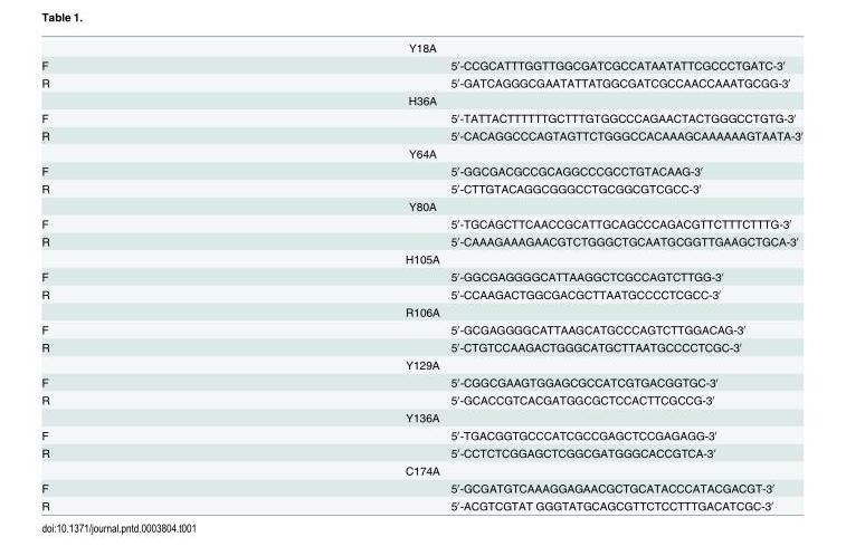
<table><tbody><tr><td colspan="2">Y18A</td></tr><tr><td>F</td><td>5ʹ-CCGCATTTGGTTGGCGATCGCCATAATATTCGCCCTGATC-3ʹ</td></tr><tr><td>R</td><td>5ʹ-GATCAGGGCGAATATTATGGCGATCGCCAACCAAATGCGG-3ʹ</td></tr><tr><td colspan="2">H36A</td></tr><tr><td>F</td><td>5ʹ-TATTACTTTTTTGCTTTGTGGCCCAGAACTACTGGGCCTGTG-3ʹ</td></tr><tr><td>R</td><td>5ʹ-CACAGGCCCAGTAGTTCTGGGCCACAAAGCAAAAAAGTAATA-3ʹ</td></tr><tr><td colspan="2">Y64A</td></tr><tr><td>F</td><td>5ʹ-GGCGACGCCGCAGGCCCGCCTGTACAAG-3ʹ</td></tr><tr><td>R</td><td>5ʹ-CTTGTACAGGCGGGCCTGCGGCGTCGCC-3ʹ</td></tr><tr><td colspan="2">Y80A</td></tr><tr><td>F</td><td>5ʹ-TGCAGCTTCAACCGCATTGCAGCCCAGACGTTCTTTCTTTG-3ʹ</td></tr><tr><td>R</td><td>5ʹ-CAAAGAAAGAACGTCTGGGCTGCAATGCGGTTGAAGCTGCA-3ʹ</td></tr><tr><td colspan="2">H105A</td></tr><tr><td>F</td><td>5ʹ-GGCGAGGGGCATTAAGGCTCGCCAGTCTTGG-3ʹ</td></tr><tr><td>R</td><td>5ʹ-CCAAGACTGGCGACGCTTAATGCCCCTCGCC-3ʹ</td></tr><tr><td colspan="2">R106A</td></tr><tr><td>F</td><td>5ʹ-GCGAGGGGCATTAAGCATGCCCAGTCTTGGACAG-3ʹ</td></tr><tr><td>R</td><td>5ʹ-CTGTCCAAGACTGGGCATGCTTAATGCCCCTCGC-3ʹ</td></tr><tr><td colspan="2">Y129A</td></tr><tr><td>F</td><td>5ʹ-CGGCGAAGTGGAGCGCCATCGTGACGGTGC-3ʹ</td></tr><tr><td>R</td><td>5ʹ-GCACCGTCACGATGGCGCTCCACTTCGCCG-3ʹ</td></tr><tr><td colspan="2">Y136A</td></tr><tr><td>F</td><td>5ʹ-TGACGGTGCCCATCGCCGAGCTCCGAGAGG-3ʹ</td></tr><tr><td>R</td><td>5ʹ-CCTCTCGGAGCTCGGCGATGGGCACCGTCA-3ʹ</td></tr><tr><td colspan="2">C174A</td></tr><tr><td>F</td><td>5ʹ-GCGATGTCAAAGGAGAACGCTGCATACCCATACGACGT-3ʹ</td></tr><tr><td>R</td><td>5ʹ-ACGTCGTAT GGGTATGCAGCGTTCTCCTTTGACATCGC-3ʹ</td></tr></tbody></table>